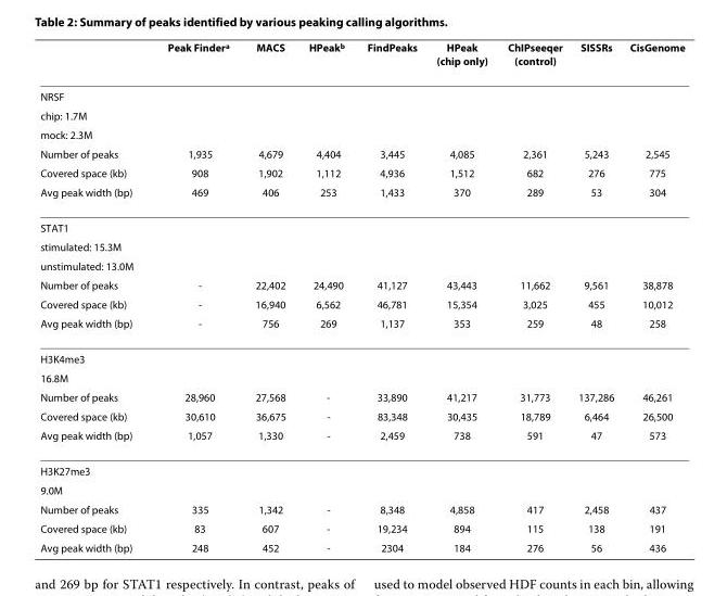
<table><thead><tr><td></td><td>Peak Finder<sup>a</sup></td><td>MACS</td><td>HPeak<sup>b</sup></td><td>FindPeaks</td><td>HPeak (chip only)</td><td>ChIPseeqer (control)</td><td>SISSRs</td><td>CisGenome</td></tr></thead><tbody><tr><td colspan="9">NRSF</td></tr><tr><td colspan="9">chip: 1.7M</td></tr><tr><td colspan="9">mock: 2.3M</td></tr><tr><td>Number of peaks</td><td>1,935</td><td>4,679</td><td>4,404</td><td>3,445</td><td>4,085</td><td>2,361</td><td>5,243</td><td>2,545</td></tr><tr><td>Covered space (kb)</td><td>908</td><td>1,902</td><td>1,112</td><td>4,936</td><td>1,512</td><td>682</td><td>276</td><td>775</td></tr><tr><td>Avg peak width (bp)</td><td>469</td><td>406</td><td>253</td><td>1,433</td><td>370</td><td>289</td><td>53</td><td>304</td></tr><tr><td colspan="9">STAT1</td></tr><tr><td colspan="9">stimulated: 15.3M</td></tr><tr><td colspan="9">unstimulated: 13.0M</td></tr><tr><td>Number of peaks</td><td>-</td><td>22,402</td><td>24,490</td><td>41,127</td><td>43,443</td><td>11,662</td><td>9,561</td><td>38,878</td></tr><tr><td>Covered space (kb)</td><td>-</td><td>16,940</td><td>6,562</td><td>46,781</td><td>15,354</td><td>3,025</td><td>455</td><td>10,012</td></tr><tr><td>Avg peak width (bp)</td><td>-</td><td>756</td><td>269</td><td>1,137</td><td>353</td><td>259</td><td>48</td><td>258</td></tr><tr><td colspan="9">H3K4me3</td></tr><tr><td colspan="9">16.8M</td></tr><tr><td>Number of peaks</td><td>28,960</td><td>27,568</td><td>-</td><td>33,890</td><td>41,217</td><td>31,773</td><td>137,286</td><td>46,261</td></tr><tr><td>Covered space (kb)</td><td>30,610</td><td>36,675</td><td>-</td><td>83,348</td><td>30,435</td><td>18,789</td><td>6,464</td><td>26,500</td></tr><tr><td>Avg peak width (bp)</td><td>1,057</td><td>1,330</td><td>-</td><td>2,459</td><td>738</td><td>591</td><td>47</td><td>573</td></tr><tr><td colspan="9">H3K27me3</td></tr><tr><td colspan="9">9.0M</td></tr><tr><td>Number of peaks</td><td>335</td><td>1,342</td><td>-</td><td>8,348</td><td>4,858</td><td>417</td><td>2,458</td><td>437</td></tr><tr><td>Covered space (kb)</td><td>83</td><td>607</td><td>-</td><td>19,234</td><td>894</td><td>115</td><td>138</td><td>191</td></tr><tr><td>Avg peak width (bp)</td><td>248</td><td>452</td><td>-</td><td>2304</td><td>184</td><td>276</td><td>56</td><td>436</td></tr></tbody></table>